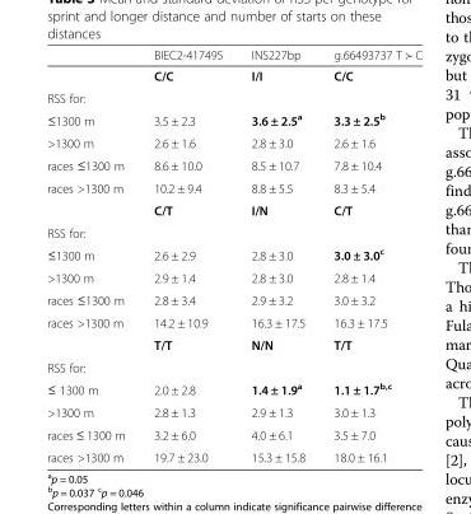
<table><thead><tr><td></td><td>BIEC2-417495</td><td>INS227bp</td><td>g.66493737 T ≻ C</td></tr></thead><tbody><tr><td></td><td>C/C</td><td>I/I</td><td>C/C</td></tr><tr><td colspan="4">RSS for:</td></tr><tr><td>≤1300 m</td><td>3.5 ± 2.3</td><td>3.6 ± 2.5<sup>a</sup></td><td>3.3 ± 2.5<sup>b</sup></td></tr><tr><td>&gt;1300 m</td><td>2.6 ± 1.6</td><td>2.8 ± 3.0</td><td>2.6 ± 1.6</td></tr><tr><td>races ≤1300 m</td><td>8.6 ± 10.0</td><td>8.5 ± 10.7</td><td>7.8 ± 10.4</td></tr><tr><td rowspan="2">races &gt;1300 m</td><td>10.2 ± 9.4</td><td>8.8 ± 5.5</td><td>8.3 ± 5.4</td></tr><tr><td>C/T</td><td>I/N</td><td>C/T</td></tr><tr><td colspan="4">RSS for:</td></tr><tr><td>≤1300 m</td><td>2.6 ± 2.9</td><td>2.8 ± 3.0</td><td>3.0 ± 3.0<sup>c</sup></td></tr><tr><td>&gt;1300 m</td><td>2.9 ± 1.4</td><td>2.8 ± 3.0</td><td>2.8 ± 1.4</td></tr><tr><td>races ≤1300 m</td><td>2.8 ± 3.4</td><td>2.9 ± 3.2</td><td>3.0 ± 3.2</td></tr><tr><td rowspan="2">races &gt;1300 m</td><td>14.2 ± 10.9</td><td>16.3 ± 17.5</td><td>16.3 ± 17.5</td></tr><tr><td>T/T</td><td>N/N</td><td>T/T</td></tr><tr><td colspan="4">RSS for:</td></tr><tr><td>≤ 1300 m</td><td>2.0 ± 2.8</td><td>1.4 ± 1.9<sup>a</sup></td><td>1.1 ± 1.7<sup>b,c</sup></td></tr><tr><td>&gt;1300 m</td><td>2.8 ± 1.3</td><td>2.9 ± 1.3</td><td>3.0 ± 1.3</td></tr><tr><td>races ≤ 1300 m</td><td>3.2 ± 6.0</td><td>4.0 ± 6.1</td><td>3.5 ± 7.0</td></tr><tr><td>races &gt;1300 m</td><td>19.7 ± 23.0</td><td>15.3 ± 15.8</td><td>18.0 ± 16.1</td></tr></tbody></table>